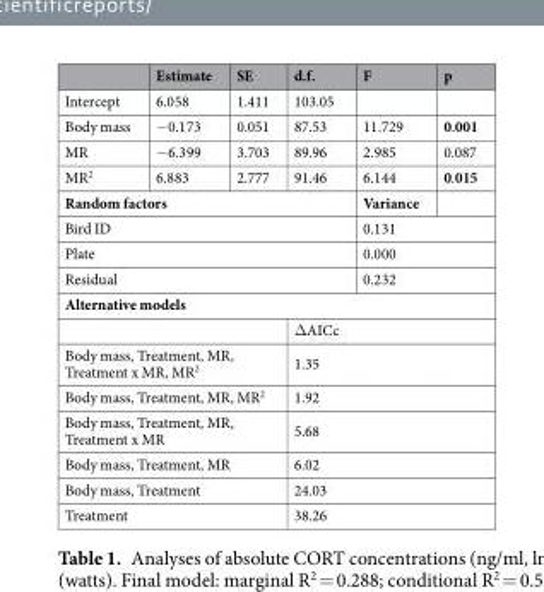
<table><thead><tr><td></td><td>Estimate</td><td>SE</td><td>d.f.</td><td>F</td><td>p</td></tr></thead><tbody><tr><td>Intercept</td><td>6.058</td><td>1.411</td><td>103.05</td><td></td><td></td></tr><tr><td>Body mass</td><td>−0.173</td><td>0.051</td><td>87.53</td><td>11.729</td><td>0.001</td></tr><tr><td>MR</td><td>−6.399</td><td>3.703</td><td>89.96</td><td>2.985</td><td>0.087</td></tr><tr><td>MR<sup>2</sup></td><td>6.883</td><td>2.777</td><td>91.46</td><td>6.144</td><td>0.015</td></tr><tr><td colspan="4">Random factors</td><td>Variance</td><td></td></tr><tr><td colspan="4">Bird ID</td><td colspan="2">0.131</td></tr><tr><td colspan="4">Plate</td><td colspan="2">0.000</td></tr><tr><td colspan="4">Residual</td><td colspan="2">0.232</td></tr><tr><td colspan="6">Alternative models</td></tr><tr><td colspan="3"></td><td colspan="3">ΔAICc</td></tr><tr><td colspan="3">Body mass, Treatment, MR, Treatment x MR, MR<sup>2</sup></td><td colspan="3">1.35</td></tr><tr><td colspan="3">Body mass, Treatment, MR, MR<sup>2</sup></td><td colspan="3">1.92</td></tr><tr><td colspan="3">Body mass, Treatment, MR, Treatment x MR</td><td colspan="3">5.68</td></tr><tr><td colspan="3">Body mass, Treatment, MR</td><td colspan="3">6.02</td></tr><tr><td colspan="3">Body mass, Treatment</td><td colspan="3">24.03</td></tr><tr><td colspan="3">Treatment</td><td colspan="3">38.26</td></tr></tbody></table>